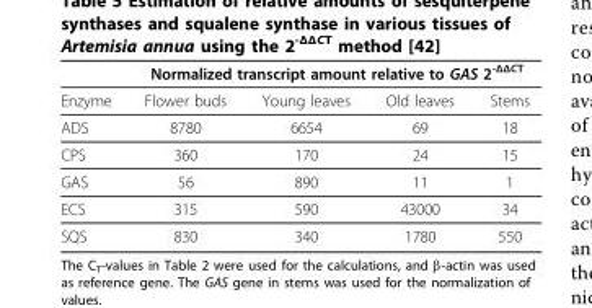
<table><thead><tr><td rowspan="2">Enzyme</td><td colspan="4">Normalized transcript amount relative to GAS 2<sup>-ΔΔCT</sup></td></tr><tr><td>Flower buds</td><td>Young leaves</td><td>Old leaves</td><td>Stems</td></tr></thead><tbody><tr><td>ADS</td><td>8780</td><td>6654</td><td>69</td><td>18</td></tr><tr><td>CPS</td><td>360</td><td>170</td><td>24</td><td>15</td></tr><tr><td>GAS</td><td>56</td><td>890</td><td>11</td><td>1</td></tr><tr><td>ECS</td><td>315</td><td>590</td><td>43000</td><td>34</td></tr><tr><td>SQS</td><td>830</td><td>340</td><td>1780</td><td>550</td></tr></tbody></table>